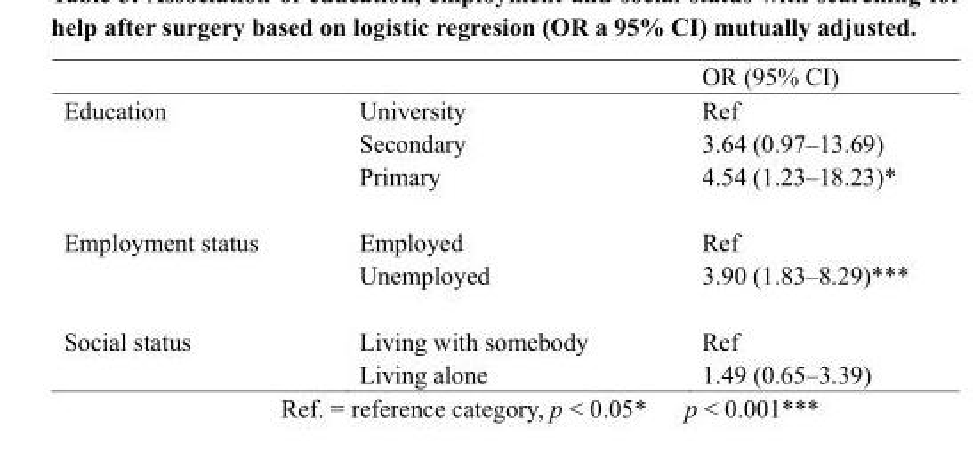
<table><thead><tr><td></td><td></td><td>OR (95% CI)</td></tr></thead><tbody><tr><td rowspan="3">Education</td><td>University</td><td>Ref</td></tr><tr><td>Secondary</td><td>3.64 (0.97–13.69)</td></tr><tr><td>Primary</td><td>4.54 (1.23–18.23)*</td></tr><tr><td rowspan="2">Employment status</td><td>Employed</td><td>Ref</td></tr><tr><td>Unemployed</td><td>3.90 (1.83–8.29)***</td></tr><tr><td rowspan="2">Social status</td><td>Living with somebody</td><td>Ref</td></tr><tr><td>Living alone</td><td>1.49 (0.65–3.39)</td></tr></tbody></table>